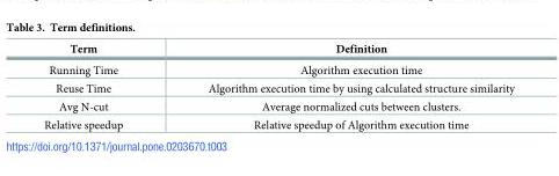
<table><thead><tr><td>Term</td><td>Definition</td></tr></thead><tbody><tr><td>Running Time</td><td>Algorithm execution time</td></tr><tr><td>Reuse Time</td><td>Algorithm execution time by using calculated structure similarity</td></tr><tr><td>Avg N-cut</td><td>Average normalized cuts between clusters.</td></tr><tr><td>Relative speedup</td><td>Relative speedup of Algorithm execution time</td></tr></tbody></table>